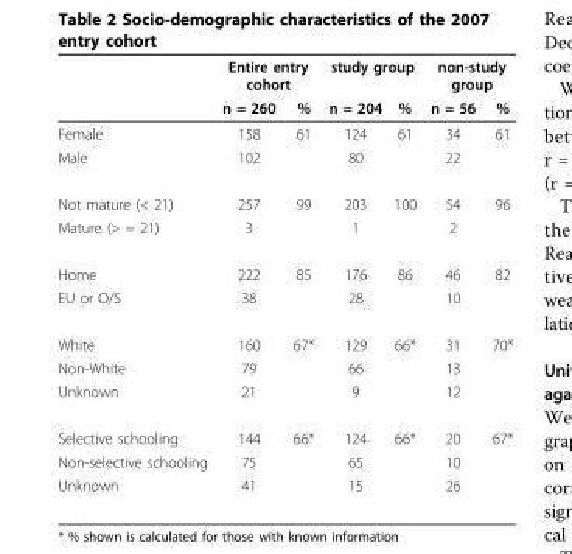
<table><thead><tr><td rowspan="2"></td><td colspan="2">Entire entry cohort</td><td colspan="2">study group</td><td colspan="2">non-study group</td></tr><tr><td>n = 260</td><td>%</td><td>n = 204</td><td>%</td><td>n = 56</td><td>%</td></tr></thead><tbody><tr><td>Female</td><td>158</td><td>61</td><td>124</td><td>61</td><td>34</td><td>61</td></tr><tr><td>Male</td><td>102</td><td></td><td>80</td><td></td><td>22</td><td></td></tr><tr><td>Not mature (&lt; 21)</td><td>257</td><td>99</td><td>203</td><td>100</td><td>54</td><td>96</td></tr><tr><td>Mature (&gt; = 21)</td><td>3</td><td></td><td>1</td><td></td><td>2</td><td></td></tr><tr><td>Home</td><td>222</td><td>85</td><td>176</td><td>86</td><td>46</td><td>82</td></tr><tr><td>EU or O/S</td><td>38</td><td></td><td>28</td><td></td><td>10</td><td></td></tr><tr><td>White</td><td>160</td><td>67*</td><td>129</td><td>66*</td><td>31</td><td>70*</td></tr><tr><td>Non-White</td><td>79</td><td></td><td>66</td><td></td><td>13</td><td></td></tr><tr><td>Unknown</td><td>21</td><td></td><td>9</td><td></td><td>12</td><td></td></tr><tr><td>Selective schooling</td><td>144</td><td>66*</td><td>124</td><td>66*</td><td>20</td><td>67*</td></tr><tr><td>Non-selective schooling</td><td>75</td><td></td><td>65</td><td></td><td>10</td><td></td></tr><tr><td>Unknown</td><td>41</td><td></td><td>15</td><td></td><td>26</td><td></td></tr></tbody></table>